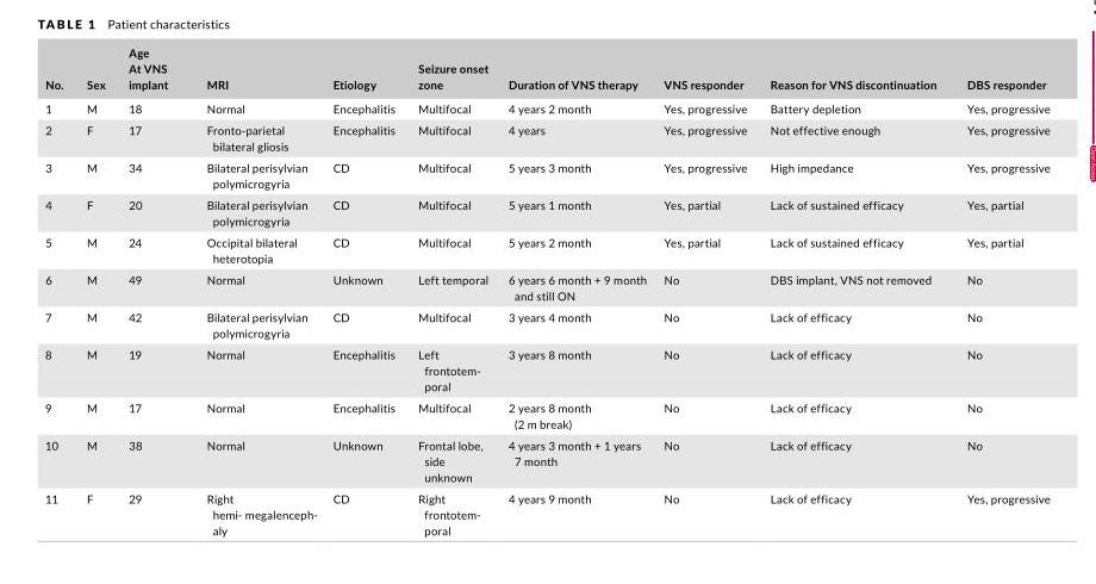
<table><thead><tr><td>No.</td><td>Sex</td><td>Age At VNS implant</td><td>MRI</td><td>Etiology</td><td>Seizure onset zone</td><td>Duration of VNS therapy</td><td>VNS responder</td><td>Reason for VNS discontinuation</td><td>DBS responder</td></tr></thead><tbody><tr><td>1</td><td>M</td><td>18</td><td>Normal</td><td>Encephalitis</td><td>Multifocal</td><td>4 years 2 month</td><td>Yes, progressive</td><td>Battery depletion</td><td>Yes, progressive</td></tr><tr><td>2</td><td>F</td><td>17</td><td>Fronto- parietal bilateral gliosis</td><td>Encephalitis</td><td>Multifocal</td><td>4 years</td><td>Yes, progressive</td><td>Not effective enough</td><td>Yes, progressive</td></tr><tr><td>3</td><td>M</td><td>34</td><td>Bilateral perisylvian polymicrogyria</td><td>CD</td><td>Multifocal</td><td>5 years 3 month</td><td>Yes, progressive</td><td>High impedance</td><td>Yes, progressive</td></tr><tr><td>4</td><td>F</td><td>20</td><td>Bilateral perisylvian polymicrogyria</td><td>CD</td><td>Multifocal</td><td>5 years 1 month</td><td>Yes, partial</td><td>Lack of sustained efficacy</td><td>Yes, partial</td></tr><tr><td>5</td><td>M</td><td>24</td><td>Occipital bilateral heterotopia</td><td>CD</td><td>Multifocal</td><td>5 years 2 month</td><td>Yes, partial</td><td>Lack of sustained efficacy</td><td>Yes, partial</td></tr><tr><td>6</td><td>M</td><td>49</td><td>Normal</td><td>Unknown</td><td>Left temporal</td><td>6 years 6 month + 9 month and still ON</td><td>No</td><td>DBS implant, VNS not removed</td><td>No</td></tr><tr><td>7</td><td>M</td><td>42</td><td>Bilateral perisylvian polymicrogyria</td><td>CD</td><td>Multifocal</td><td>3 years 4 month</td><td>No</td><td>Lack of efficacy</td><td>No</td></tr><tr><td>8</td><td>M</td><td>19</td><td>Normal</td><td>Encephalitis</td><td>Left frontotem- poral</td><td>3 years 8 month</td><td>No</td><td>Lack of efficacy</td><td>No</td></tr><tr><td>9</td><td>M</td><td>17</td><td>Normal</td><td>Encephalitis</td><td>Multifocal</td><td>2 years 8 month (2 m break)</td><td>No</td><td>Lack of efficacy</td><td>No</td></tr><tr><td>10</td><td>M</td><td>38</td><td>Normal</td><td>Unknown</td><td>Frontal lobe, side unknown</td><td>4 years 3 month + 1 years 7 month</td><td>No</td><td>Lack of efficacy</td><td>No</td></tr><tr><td>11</td><td>F</td><td>29</td><td>Right hemi- megalenceph- aly</td><td>CD</td><td>Right frontotem- poral</td><td>4 years 9 month</td><td>No</td><td>Lack of efficacy</td><td>Yes, progressive</td></tr></tbody></table>